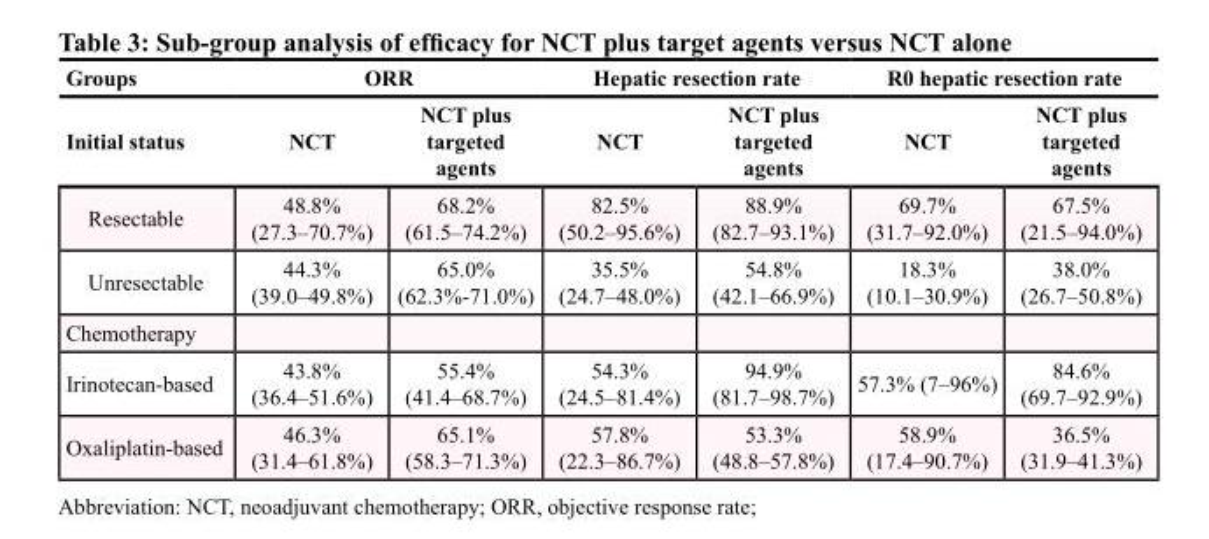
<table><thead><tr><td rowspan="2">Groups Initial status</td><td colspan="2">ORR</td><td colspan="2">Hepatic resection rate</td><td colspan="2">R0 hepatic resection rate</td></tr><tr><td>NCT</td><td>NCT plus targeted agents</td><td>NCT</td><td>NCT plus targeted agents</td><td>NCT</td><td>NCT plus targeted agents</td></tr></thead><tbody><tr><td>Resectable</td><td>48.8% (27.3–70.7%)</td><td>68.2% (61.5–74.2%)</td><td>82.5% (50.2–95.6%)</td><td>88.9% (82.7–93.1%)</td><td>69.7% (31.7–92.0%)</td><td>67.5% (21.5–94.0%)</td></tr><tr><td>Unresectable</td><td>44.3% (39.0–49.8%)</td><td>65.0% (62.3%-71.0%)</td><td>35.5% (24.7–48.0%)</td><td>54.8% (42.1–66.9%)</td><td>18.3% (10.1–30.9%)</td><td>38.0% (26.7–50.8%)</td></tr><tr><td colspan="7">Chemotherapy</td></tr><tr><td>Irinotecan-based</td><td>43.8% (36.4–51.6%)</td><td>55.4% (41.4–68.7%)</td><td>54.3% (24.5–81.4%)</td><td>94.9% (81.7–98.7%)</td><td>57.3% (7–96%)</td><td>84.6% (69.7–92.9%)</td></tr><tr><td>Oxaliplatin-based</td><td>46.3% (31.4–61.8%)</td><td>65.1% (58.3–71.3%)</td><td>57.8% (22.3–86.7%)</td><td>53.3% (48.8–57.8%)</td><td>58.9% (17.4–90.7%)</td><td>36.5% (31.9–41.3%)</td></tr></tbody></table>